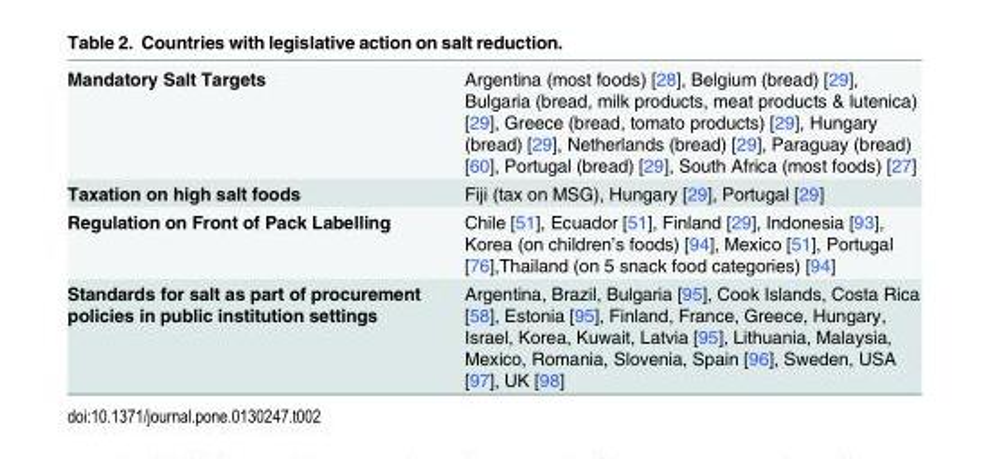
<table><tbody><tr><td>Mandatory Salt Targets</td><td>Argentina (most foods) [28], Belgium (bread) [29], Bulgaria (bread, milk products, meat products &amp; lutenica) [29], Greece (bread, tomato products) [29], Hungary (bread) [29], Netherlands (bread) [29], Paraguay (bread) [60], Portugal (bread) [29], South Africa (most foods) [27]</td></tr><tr><td>Taxation on high salt foods</td><td>Fiji (tax on MSG), Hungary [29], Portugal [29]</td></tr><tr><td>Regulation on Front of Pack Labelling</td><td>Chile [51], Ecuador [51], Finland [29], Indonesia [93], Korea (on children’s foods) [94], Mexico [51], Portugal [76],Thailand (on 5 snack food categories) [94]</td></tr><tr><td>Standards for salt as part of procurement policies in public institution settings</td><td>Argentina, Brazil, Bulgaria [95], Cook Islands, Costa Rica [58], Estonia [95], Finland, France, Greece, Hungary, Israel, Korea, Kuwait, Latvia [95], Lithuania, Malaysia, Mexico, Romania, Slovenia, Spain [96], Sweden, USA [97], UK [98]</td></tr></tbody></table>